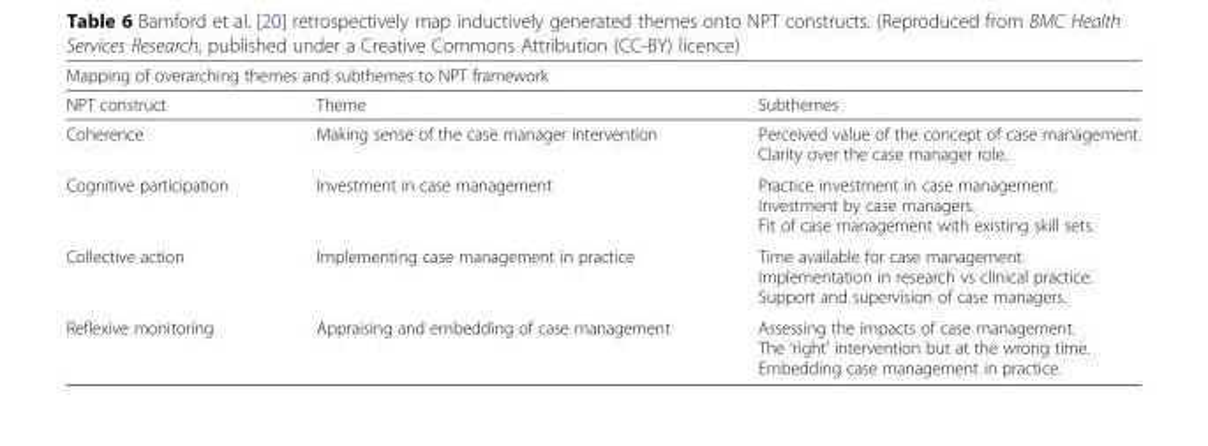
<table><thead><tr><td colspan="3">Mapping of overarching themes and subthemes to NPT framework</td></tr><tr><td>NPT construct</td><td>Theme</td><td>Subthemes</td></tr></thead><tbody><tr><td>Coherence</td><td>Making sense of the case manager intervention</td><td>Perceived value of the concept of case management. Clarity over the case manager role.</td></tr><tr><td>Cognitive participation</td><td>Investment in case management</td><td>Practice investment in case management. Investment by case managers. Fit of case management with existing skill sets.</td></tr><tr><td>Collective action</td><td>Implementing case management in practice</td><td>Time available for case management. Implementation in research vs clinical practice. Support and supervision of case managers.</td></tr><tr><td>Reflexive monitoring</td><td>Appraising and embedding of case management</td><td>Assessing the impacts of case management. The ‘right’ intervention but at the wrong time. Embedding case management in practice.</td></tr></tbody></table>